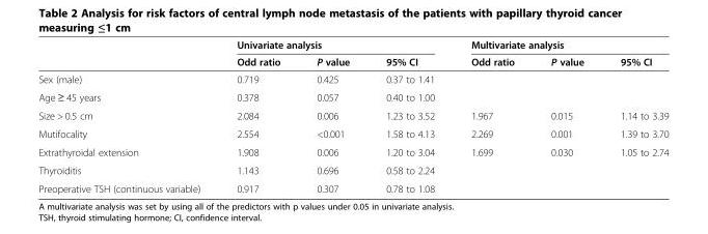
<table><thead><tr><td rowspan="2"></td><td colspan="3">Univariate analysis</td><td colspan="3">Multivariate analysis</td></tr><tr><td>Odd ratio</td><td>P value</td><td>95% CI</td><td>Odd ratio</td><td>P value</td><td>95% CI</td></tr></thead><tbody><tr><td>Sex (male)</td><td>0.719</td><td>0.425</td><td>0.37 to 1.41</td><td></td><td></td><td></td></tr><tr><td>Age ≥ 45 years</td><td>0.378</td><td>0.057</td><td>0.40 to 1.00</td><td></td><td></td><td></td></tr><tr><td>Size &gt; 0.5 cm</td><td>2.084</td><td>0.006</td><td>1.23 to 3.52</td><td>1.967</td><td>0.015</td><td>1.14 to 3.39</td></tr><tr><td>Mutifocality</td><td>2.554</td><td>&lt;0.001</td><td>1.58 to 4.13</td><td>2.269</td><td>0.001</td><td>1.39 to 3.70</td></tr><tr><td>Extrathyroidal extension</td><td>1.908</td><td>0.006</td><td>1.20 to 3.04</td><td>1.699</td><td>0.030</td><td>1.05 to 2.74</td></tr><tr><td>Thyroiditis</td><td>1.143</td><td>0.696</td><td>0.58 to 2.24</td><td></td><td></td><td></td></tr><tr><td>Preoperative TSH (continuous variable)</td><td>0.917</td><td>0.307</td><td>0.78 to 1.08</td><td></td><td></td><td></td></tr></tbody></table>